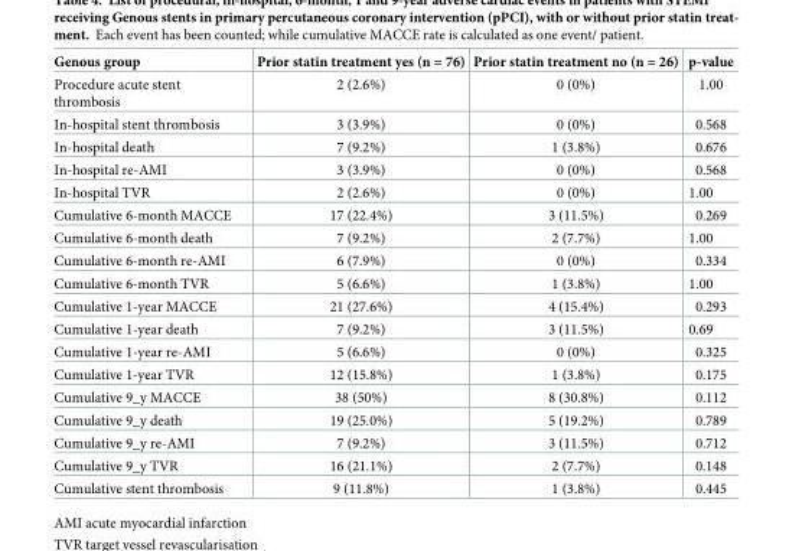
<table><thead><tr><td>Genous group</td><td>Prior statin treatment yes (n = 76)</td><td>Prior statin treatment no (n = 26)</td><td>p-value</td></tr></thead><tbody><tr><td>Procedure acute stent thrombosis</td><td>2 (2.6%)</td><td>0 (0%)</td><td>1.00</td></tr><tr><td>In-hospital stent thrombosis</td><td>3 (3.9%)</td><td>0 (0%)</td><td>0.568</td></tr><tr><td>In-hospital death</td><td>7 (9.2%)</td><td>1 (3.8%)</td><td>0.676</td></tr><tr><td>In-hospital re-AMI</td><td>3 (3.9%)</td><td>0 (0%)</td><td>0.568</td></tr><tr><td>In-hospital TVR</td><td>2 (2.6%)</td><td>0 (0%)</td><td>1.00</td></tr><tr><td>Cumulative 6-month MACCE</td><td>17 (22.4%)</td><td>3 (11.5%)</td><td>0.269</td></tr><tr><td>Cumulative 6-month death</td><td>7 (9.2%)</td><td>2 (7.7%)</td><td>1.00</td></tr><tr><td>Cumulative 6-month re-AMI</td><td>6 (7.9%)</td><td>0 (0%)</td><td>0.334</td></tr><tr><td>Cumulative 6-month TVR</td><td>5 (6.6%)</td><td>1 (3.8%)</td><td>1.00</td></tr><tr><td>Cumulative 1-year MACCE</td><td>21 (27.6%)</td><td>4 (15.4%)</td><td>0.293</td></tr><tr><td>Cumulative 1-year death</td><td>7 (9.2%)</td><td>3 (11.5%)</td><td>0.69</td></tr><tr><td>Cumulative 1-year re-AMI</td><td>5 (6.6%)</td><td>0 (0%)</td><td>0.325</td></tr><tr><td>Cumulative 1-year TVR</td><td>12 (15.8%)</td><td>1 (3.8%)</td><td>0.175</td></tr><tr><td>Cumulative 9_y MACCE</td><td>38 (50%)</td><td>8 (30.8%)</td><td>0.112</td></tr><tr><td>Cumulative 9_y death</td><td>19 (25.0%)</td><td>5 (19.2%)</td><td>0.789</td></tr><tr><td>Cumulative 9_y re-AMI</td><td>7 (9.2%)</td><td>3 (11.5%)</td><td>0.712</td></tr><tr><td>Cumulative 9_y TVR</td><td>16 (21.1%)</td><td>2 (7.7%)</td><td>0.148</td></tr><tr><td>Cumulative stent thrombosis</td><td>9 (11.8%)</td><td>1 (3.8%)</td><td>0.445</td></tr></tbody></table>